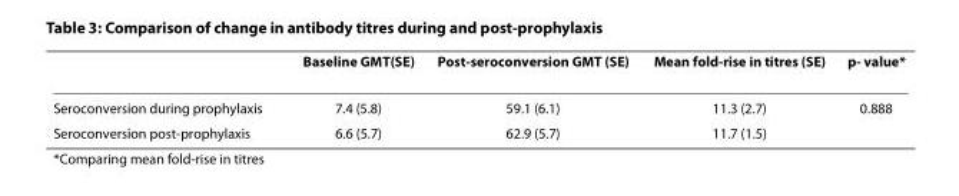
<table><thead><tr><td></td><td>Baseline GMT(SE)</td><td>Post-seroconversion GMT (SE)</td><td>Mean fold-rise in titres (SE)</td><td>p- value*</td></tr></thead><tbody><tr><td>Seroconversion during prophylaxis</td><td>7.4 (5.8)</td><td>59.1 (6.1)</td><td>11.3 (2.7)</td><td>0.888</td></tr><tr><td>Seroconversion post-prophylaxis</td><td>6.6 (5.7)</td><td>62.9 (5.7)</td><td>11.7 (1.5)</td><td></td></tr></tbody></table>